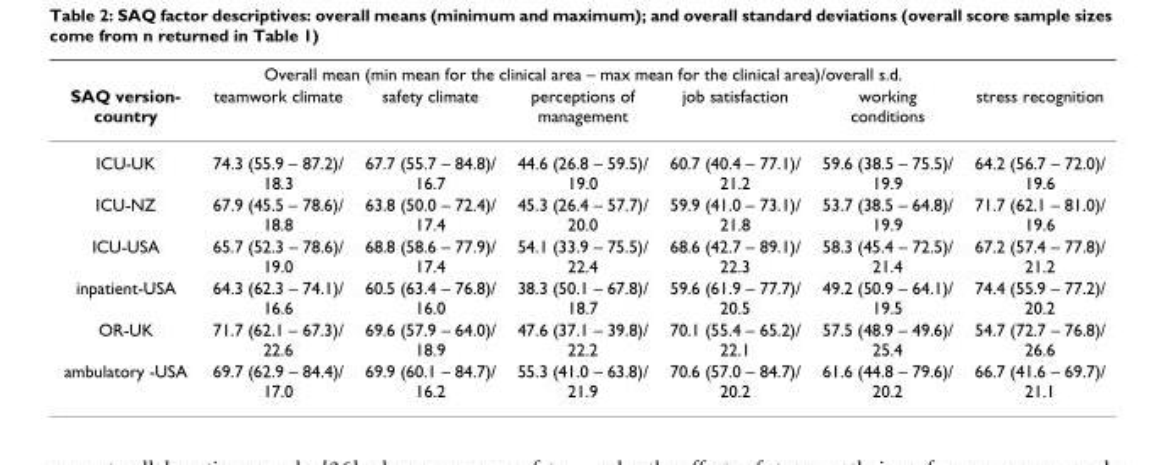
<table><thead><tr><td colspan="7">Overall mean (min mean for the clinical area – max mean for the clinical area)/overall s.d.</td></tr><tr><td>SAQ version- country</td><td>teamwork climate</td><td>safety climate</td><td>perceptions of management</td><td>job satisfaction</td><td>working conditions</td><td>stress recognition</td></tr></thead><tbody><tr><td>ICU-UK</td><td>74.3 (55.9 – 87.2)/ 18.3</td><td>67.7 (55.7 – 84.8)/ 16.7</td><td>44.6 (26.8 – 59.5)/ 19.0</td><td>60.7 (40.4 – 77.1)/ 21.2</td><td>59.6 (38.5 – 75.5)/ 19.9</td><td>64.2 (56.7 – 72.0)/ 19.6</td></tr><tr><td>ICU-NZ</td><td>67.9 (45.5 – 78.6)/ 18.8</td><td>63.8 (50.0 – 72.4)/ 17.4</td><td>45.3 (26.4 – 57.7)/ 20.0</td><td>59.9 (41.0 – 73.1)/ 21.8</td><td>53.7 (38.5 – 64.8)/ 19.9</td><td>71.7 (62.1 – 81.0)/ 19.6</td></tr><tr><td>ICU-USA</td><td>65.7 (52.3 – 78.6)/ 19.0</td><td>68.8 (58.6 – 77.9)/ 17.4</td><td>54.1 (33.9 – 75.5)/ 22.4</td><td>68.6 (42.7 – 89.1)/ 22.3</td><td>58.3 (45.4 – 72.5)/ 21.4</td><td>67.2 (57.4 – 77.8)/ 21.2</td></tr><tr><td>inpatient-USA</td><td>64.3 (62.3 – 74.1)/ 16.6</td><td>60.5 (63.4 – 76.8)/ 16.0</td><td>38.3 (50.1 – 67.8)/ 18.7</td><td>59.6 (61.9 – 77.7)/ 20.5</td><td>49.2 (50.9 – 64.1)/ 19.5</td><td>74.4 (55.9 – 77.2)/ 20.2</td></tr><tr><td>OR-UK</td><td>71.7 (62.1 – 67.3)/ 22.6</td><td>69.6 (57.9 – 64.0)/ 18.9</td><td>47.6 (37.1 – 39.8)/ 22.2</td><td>70.1 (55.4 – 65.2)/ 22.1</td><td>57.5 (48.9 – 49.6)/ 25.4</td><td>54.7 (72.7 – 76.8)/ 26.6</td></tr><tr><td>ambulatory -USA</td><td>69.7 (62.9 – 84.4)/ 17.0</td><td>69.9 (60.1 – 84.7)/ 16.2</td><td>55.3 (41.0 – 63.8)/ 21.9</td><td>70.6 (57.0 – 84.7)/ 20.2</td><td>61.6 (44.8 – 79.6)/ 20.2</td><td>66.7 (41.6 – 69.7)/ 21.1</td></tr></tbody></table>